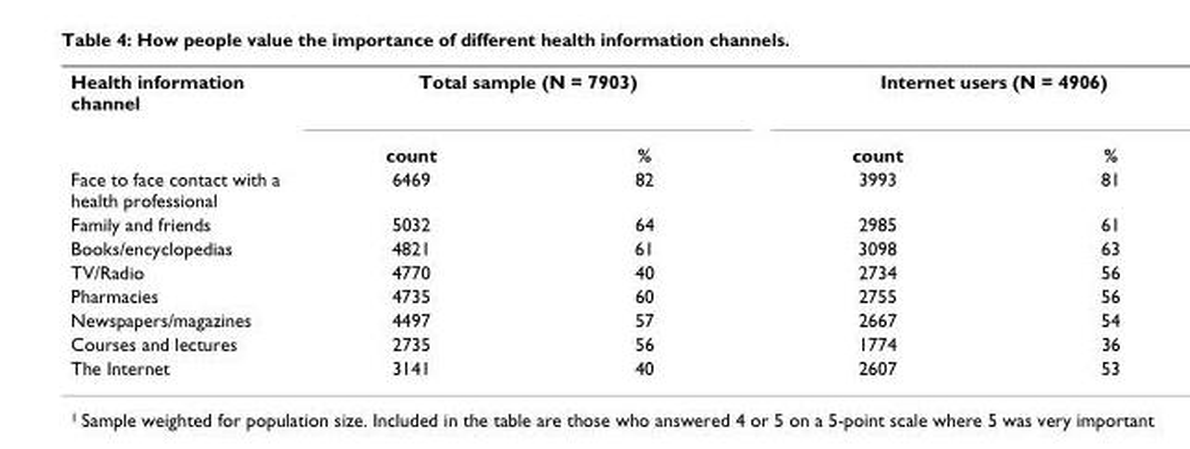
<table><tbody><tr><td rowspan="2">Health information channel</td><td colspan="2">Total sample (N = 7903)</td><td colspan="2">Internet users (N = 4906)</td></tr><tr><td>count</td><td>%</td><td>count</td><td>%</td></tr><tr><td>Face to face contact with a health professional</td><td>6469</td><td>82</td><td>3993</td><td>81</td></tr><tr><td>Family and friends</td><td>5032</td><td>64</td><td>2985</td><td>61</td></tr><tr><td>Books/encyclopedias</td><td>4821</td><td>61</td><td>3098</td><td>63</td></tr><tr><td>TV/Radio</td><td>4770</td><td>40</td><td>2734</td><td>56</td></tr><tr><td>Pharmacies</td><td>4735</td><td>60</td><td>2755</td><td>56</td></tr><tr><td>Newspapers/magazines</td><td>4497</td><td>57</td><td>2667</td><td>54</td></tr><tr><td>Courses and lectures</td><td>2735</td><td>56</td><td>1774</td><td>36</td></tr><tr><td>The Internet</td><td>3141</td><td>40</td><td>2607</td><td>53</td></tr></tbody></table>